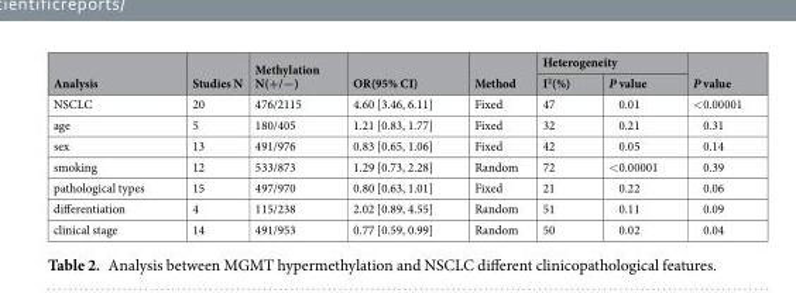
<table><thead><tr><td rowspan="2">Analysis</td><td rowspan="2">Studies N</td><td rowspan="2">Methylation N(+/−)</td><td rowspan="2">OR(95% CI)</td><td rowspan="2">Method</td><td colspan="2">Heterogeneity</td><td rowspan="2">P value</td></tr><tr><td>I<sup>2</sup>(%)</td><td>P value</td></tr></thead><tbody><tr><td>NSCLC</td><td>20</td><td>476/2115</td><td>4.60 [3.46, 6.11]</td><td>Fixed</td><td>47</td><td>0.01</td><td>&lt;0.00001</td></tr><tr><td>age</td><td>5</td><td>180/405</td><td>1.21 [0.83, 1.77]</td><td>Fixed</td><td>32</td><td>0.21</td><td>0.31</td></tr><tr><td>sex</td><td>13</td><td>491/976</td><td>0.83 [0.65, 1.06]</td><td>Fixed</td><td>42</td><td>0.05</td><td>0.14</td></tr><tr><td>smoking</td><td>12</td><td>533/873</td><td>1.29 [0.73, 2.28]</td><td>Random</td><td>72</td><td>&lt;0.00001</td><td>0.39</td></tr><tr><td>pathological types</td><td>15</td><td>497/970</td><td>0.80 [0.63, 1.01]</td><td>Fixed</td><td>21</td><td>0.22</td><td>0.06</td></tr><tr><td>differentiation</td><td>4</td><td>115/238</td><td>2.02 [0.89, 4.55]</td><td>Random</td><td>51</td><td>0.11</td><td>0.09</td></tr><tr><td>clinical stage</td><td>14</td><td>491/953</td><td>0.77 [0.59, 0.99]</td><td>Random</td><td>50</td><td>0.02</td><td>0.04</td></tr></tbody></table>